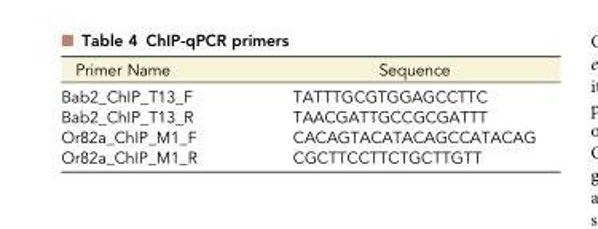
<table><thead><tr><td>Primer Name</td><td>Sequence</td></tr></thead><tbody><tr><td>Bab2_ChIP_T13_F</td><td>TATTTGCGTGGAGCCTTC</td></tr><tr><td>Bab2_ChIP_T13_R</td><td>TAACGATTGCCGCGATTT</td></tr><tr><td>Or82a_ChIP_M1_F</td><td>CACAGTACATACAGCCATACAG</td></tr><tr><td>Or82a_ChIP_M1_R</td><td>CGCTTCCTTCTGCTTGTT</td></tr></tbody></table>